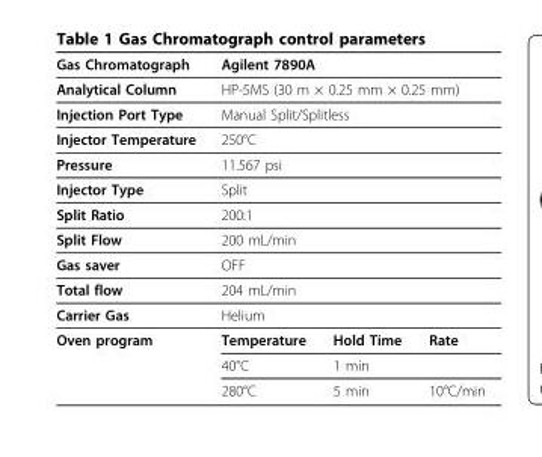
<table><thead><tr><td>Gas Chromatograph</td><td colspan="3">Agilent 7890A</td></tr></thead><tbody><tr><td>Analytical Column</td><td colspan="3">HP-5MS (30 m × 0.25 mm × 0.25 mm)</td></tr><tr><td>Injection Port Type</td><td colspan="3">Manual Split/Splitless</td></tr><tr><td>Injector Temperature</td><td colspan="3">250°C</td></tr><tr><td>Pressure</td><td colspan="3">11.567 psi</td></tr><tr><td>Injector Type</td><td colspan="3">Split</td></tr><tr><td>Split Ratio</td><td colspan="3">200:1</td></tr><tr><td>Split Flow</td><td colspan="3">200 mL/min</td></tr><tr><td>Gas saver</td><td colspan="3">OFF</td></tr><tr><td>Total flow</td><td colspan="3">204 mL/min</td></tr><tr><td>Carrier Gas</td><td colspan="3">Helium</td></tr><tr><td rowspan="3">Oven program</td><td>Temperature</td><td>Hold Time</td><td>Rate</td></tr><tr><td>40°C</td><td>1 min</td><td></td></tr><tr><td>280°C</td><td>5 min</td><td>10°C/min</td></tr></tbody></table>